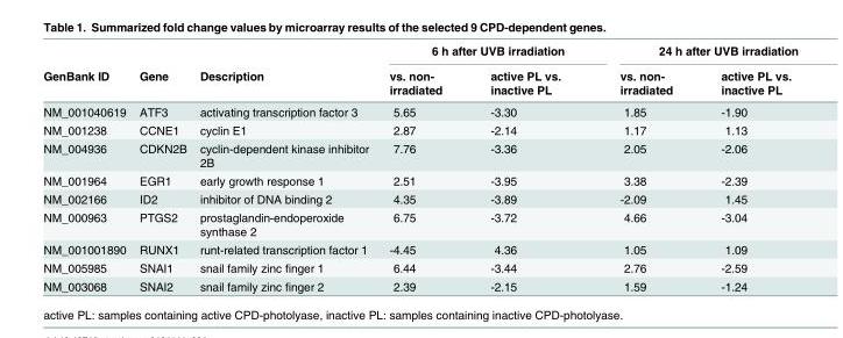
<table><thead><tr><td rowspan="2">GenBank ID</td><td rowspan="2">Gene</td><td rowspan="2">Description</td><td colspan="2">6 h after UVB irradiation</td><td colspan="2">24 h after UVB irradiation</td></tr><tr><td>vs. non- irradiated</td><td>active PL vs. inactive PL</td><td>vs. non- irradiated</td><td>active PL vs. inactive PL</td></tr></thead><tbody><tr><td>NM_001040619</td><td>ATF3</td><td>activating transcription factor 3</td><td>5.65</td><td>-3.30</td><td>1.85</td><td>-1.90</td></tr><tr><td>NM_001238</td><td>CCNE1</td><td>cyclin E1</td><td>2.87</td><td>-2.14</td><td>1.17</td><td>1.13</td></tr><tr><td>NM_004936</td><td>CDKN2B</td><td>cyclin-dependent kinase inhibitor 2B</td><td>7.76</td><td>-3.36</td><td>2.05</td><td>-2.06</td></tr><tr><td>NM_001964</td><td>EGR1</td><td>early growth response 1</td><td>2.51</td><td>-3.95</td><td>3.38</td><td>-2.39</td></tr><tr><td>NM_002166</td><td>ID2</td><td>inhibitor of DNA binding 2</td><td>4.35</td><td>-3.89</td><td>-2.09</td><td>1.45</td></tr><tr><td>NM_000963</td><td>PTGS2</td><td>prostaglandin-endoperoxide synthase 2</td><td>6.75</td><td>-3.72</td><td>4.66</td><td>-3.04</td></tr><tr><td>NM_001001890</td><td>RUNX1</td><td>runt-related transcription factor 1</td><td>-4.45</td><td>4.36</td><td>1.05</td><td>1.09</td></tr><tr><td>NM_005985</td><td>SNAI1</td><td>snail family zinc finger 1</td><td>6.44</td><td>-3.44</td><td>2.76</td><td>-2.59</td></tr><tr><td>NM_003068</td><td>SNAI2</td><td>snail family zinc finger 2</td><td>2.39</td><td>-2.15</td><td>1.59</td><td>-1.24</td></tr></tbody></table>